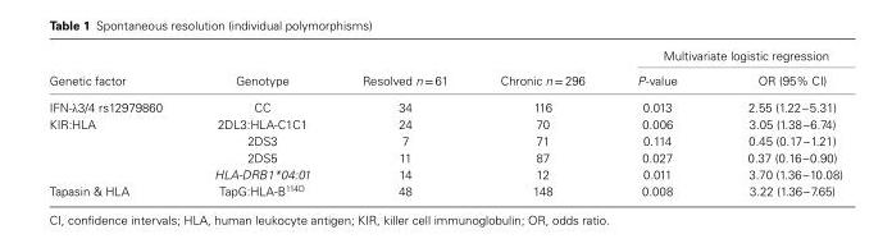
<table><thead><tr><td rowspan="2">Genetic factor</td><td rowspan="2">Genotype</td><td rowspan="2">Resolved n = 61</td><td rowspan="2">Chronic n = 296</td><td colspan="2">Multivariate logistic regression</td></tr><tr><td>P-value</td><td>OR (95% CI)</td></tr></thead><tbody><tr><td>IFN-λ3/4 rs12979860</td><td>CC</td><td>34</td><td>116</td><td>0.013</td><td>2.55 (1.22–5.31)</td></tr><tr><td rowspan="4">KIR:HLA</td><td>2DL3:HLA-C1C1</td><td>24</td><td>70</td><td>0.006</td><td>3.05 (1.38–6.74)</td></tr><tr><td>2DS3</td><td>7</td><td>71</td><td>0.114</td><td>0.45 (0.17–1.21)</td></tr><tr><td>2DS5</td><td>11</td><td>87</td><td>0.027</td><td>0.37 (0.16–0.90)</td></tr><tr><td>HLA-DRB1*04:01</td><td>14</td><td>12</td><td>0.011</td><td>3.70 (1.36–10.08)</td></tr><tr><td>Tapasin &amp; HLA</td><td>TapG:HLA-B<sup>114D</sup></td><td>48</td><td>148</td><td>0.008</td><td>3.22 (1.36–7.65)</td></tr></tbody></table>